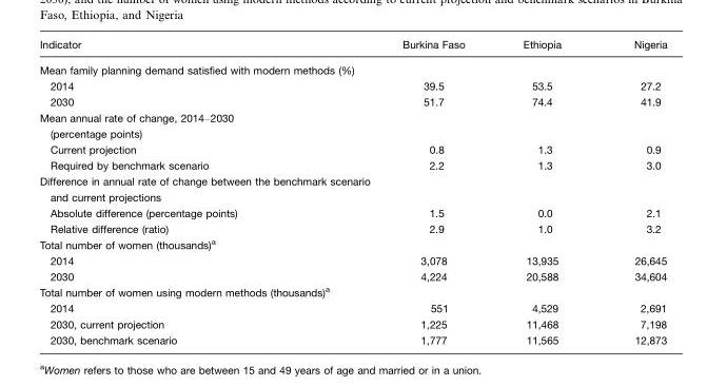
<table><thead><tr><td>Indicator</td><td>Burkina Faso</td><td>Ethiopia</td><td>Nigeria</td></tr></thead><tbody><tr><td colspan="4">Mean family planning demand satisfied with modern methods (%)</td></tr><tr><td>2014</td><td>39.5</td><td>53.5</td><td>27.2</td></tr><tr><td>2030</td><td>51.7</td><td>74.4</td><td>41.9</td></tr><tr><td colspan="4">Mean annual rate of change, 2014–2030 (percentage points)</td></tr><tr><td>Current projection</td><td>0.8</td><td>1.3</td><td>0.9</td></tr><tr><td>Required by benchmark scenario</td><td>2.2</td><td>1.3</td><td>3.0</td></tr><tr><td colspan="4">Difference in annual rate of change between the benchmark scenario and current projections</td></tr><tr><td>Absolute difference (percentage points)</td><td>1.5</td><td>0.0</td><td>2.1</td></tr><tr><td>Relative difference (ratio)</td><td>2.9</td><td>1.0</td><td>3.2</td></tr><tr><td colspan="4">Total number of women (thousands)a</td></tr><tr><td>2014</td><td>3,078</td><td>13,935</td><td>26,645</td></tr><tr><td>2030</td><td>4,224</td><td>20,588</td><td>34,604</td></tr><tr><td colspan="4">Total number of women using modern methods (thousands)a</td></tr><tr><td>2014</td><td>551</td><td>4,529</td><td>2,691</td></tr><tr><td>2030, current projection</td><td>1,225</td><td>11,468</td><td>7,198</td></tr><tr><td>2030, benchmark scenario</td><td>1,777</td><td>11,565</td><td>12,873</td></tr></tbody></table>